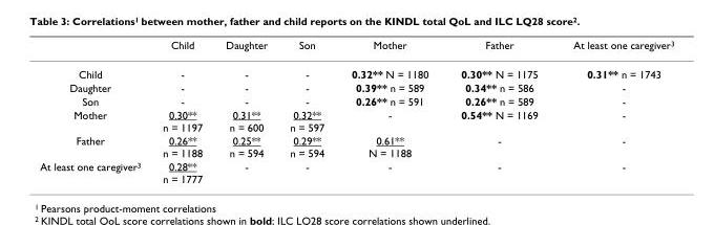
<table><thead><tr><td></td><td>Child</td><td>Daughter</td><td>Son</td><td>Mother</td><td>Father</td><td>At least one caregiver<sup>3</sup></td></tr></thead><tbody><tr><td>Child</td><td>-</td><td>-</td><td>-</td><td>0.32** N = 1180</td><td>0.30** N = 1175</td><td>0.31** n = 1743</td></tr><tr><td>Daughter</td><td>-</td><td>-</td><td>-</td><td>0.39** n = 589</td><td>0.34** n = 586</td><td>-</td></tr><tr><td>Son</td><td>-</td><td>-</td><td>-</td><td>0.26** n = 591</td><td>0.26** n = 589</td><td>-</td></tr><tr><td>Mother</td><td>0.30** n = 1197</td><td>0.31** n = 600</td><td>0.32** n = 597</td><td>-</td><td>0.54** N = 1169</td><td>-</td></tr><tr><td>Father</td><td>0.26** n = 1188</td><td>0.25** n = 594</td><td>0.29** n = 594</td><td>0.61** N = 1188</td><td>-</td><td>-</td></tr><tr><td>At least one caregiver<sup>3</sup></td><td>0.28** n = 1777</td><td>-</td><td>-</td><td>-</td><td>-</td><td>-</td></tr></tbody></table>